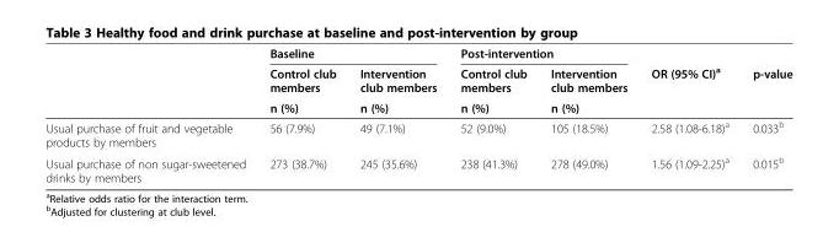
<table><thead><tr><td rowspan="3"></td><td colspan="2">Baseline</td><td colspan="2">Post-intervention</td><td rowspan="3">OR (95% CI)<sup>a</sup></td><td rowspan="3">p-value</td></tr><tr><td rowspan="2">Control club members n (%)</td><td rowspan="2">Intervention club members n (%)</td><td rowspan="2">Control club members n (%)</td><td rowspan="2">Intervention club members n (%)</td></tr><tr></tr></thead><tbody><tr><td>Usual purchase of fruit and vegetable products by members</td><td>56 (7.9%)</td><td>49 (7.1%)</td><td>52 (9.0%)</td><td>105 (18.5%)</td><td>2.58 (1.08-6.18)<sup>a</sup></td><td>0.033<sup>b</sup></td></tr><tr><td>Usual purchase of non sugar-sweetened drinks by members</td><td>273 (38.7%)</td><td>245 (35.6%)</td><td>238 (41.3%)</td><td>278 (49.0%)</td><td>1.56 (1.09-2.25)<sup>a</sup></td><td>0.015<sup>b</sup></td></tr></tbody></table>